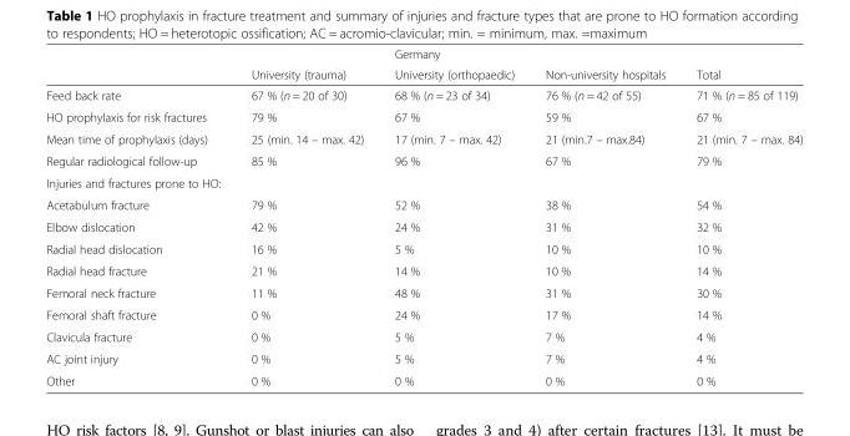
<table><thead><tr><td rowspan="2"></td><td rowspan="2">University (trauma)</td><td rowspan="2">Germany University (orthopaedic)</td><td rowspan="2">Non-university hospitals</td><td rowspan="2">Total</td></tr><tr></tr></thead><tbody><tr><td>Feed back rate</td><td>67 % (n = 20 of 30)</td><td>68 % (n = 23 of 34)</td><td>76 % (n = 42 of 55)</td><td>71 % (n = 85 of 119)</td></tr><tr><td>HO prophylaxis for risk fractures</td><td>79 %</td><td>67 %</td><td>59 %</td><td>67 %</td></tr><tr><td>Mean time of prophylaxis (days)</td><td>25 (min. 14 – max. 42)</td><td>17 (min. 7 – max. 42)</td><td>21 (min.7 – max.84)</td><td>21 (min. 7 – max. 84)</td></tr><tr><td>Regular radiological follow-up</td><td>85 %</td><td>96 %</td><td>67 %</td><td>79 %</td></tr><tr><td colspan="5">Injuries and fractures prone to HO:</td></tr><tr><td>Acetabulum fracture</td><td>79 %</td><td>52 %</td><td>38 %</td><td>54 %</td></tr><tr><td>Elbow dislocation</td><td>42 %</td><td>24 %</td><td>31 %</td><td>32 %</td></tr><tr><td>Radial head dislocation</td><td>16 %</td><td>5 %</td><td>10 %</td><td>10 %</td></tr><tr><td>Radial head fracture</td><td>21 %</td><td>14 %</td><td>10 %</td><td>14 %</td></tr><tr><td>Femoral neck fracture</td><td>11 %</td><td>48 %</td><td>31 %</td><td>30 %</td></tr><tr><td>Femoral shaft fracture</td><td>0 %</td><td>24 %</td><td>17 %</td><td>14 %</td></tr><tr><td>Clavicula fracture</td><td>0 %</td><td>5 %</td><td>7 %</td><td>4 %</td></tr><tr><td>AC joint injury</td><td>0 %</td><td>5 %</td><td>7 %</td><td>4 %</td></tr><tr><td>Other</td><td>0 %</td><td>0 %</td><td>0 %</td><td>0 %</td></tr></tbody></table>